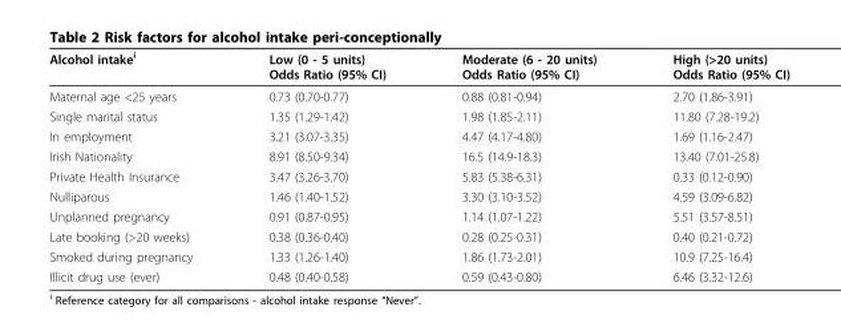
<table><thead><tr><td>Alcohol intake<sup>i</sup></td><td>Low (0 - 5 units) Odds Ratio (95% CI)</td><td>Moderate (6 - 20 units) Odds Ratio (95% CI)</td><td>High (&gt;20 units) Odds Ratio (95% CI)</td></tr></thead><tbody><tr><td>Maternal age &lt;25 years</td><td>0.73 (0.70-0.77)</td><td>0.88 (0.81-0.94)</td><td>2.70 (1.86-3.91)</td></tr><tr><td>Single marital status</td><td>1.35 (1.29-1.42)</td><td>1.98 (1.85-2.11)</td><td>11.80 (7.28-19.2)</td></tr><tr><td>In employment</td><td>3.21 (3.07-3.35)</td><td>4.47 (4.17-4.80)</td><td>1.69 (1.16-2.47)</td></tr><tr><td>Irish Nationality</td><td>8.91 (8.50-9.34)</td><td>16.5 (14.9-18.3)</td><td>13.40 (7.01-25.8)</td></tr><tr><td>Private Health Insurance</td><td>3.47 (3.26-3.70)</td><td>5.83 (5.38-6.31)</td><td>0.33 (0.12-0.90)</td></tr><tr><td>Nulliparous</td><td>1.46 (1.40-1.52)</td><td>3.30 (3.10-3.52)</td><td>4.59 (3.09-6.82)</td></tr><tr><td>Unplanned pregnancy</td><td>0.91 (0.87-0.95)</td><td>1.14 (1.07-1.22)</td><td>5.51 (3.57-8.51)</td></tr><tr><td>Late booking (&gt;20 weeks)</td><td>0.38 (0.36-0.40)</td><td>0.28 (0.25-0.31)</td><td>0.40 (0.21-0.72)</td></tr><tr><td>Smoked during pregnancy</td><td>1.33 (1.26-1.40)</td><td>1.86 (1.73-2.01)</td><td>10.9 (7.25-16.4)</td></tr><tr><td>Illicit drug use (ever)</td><td>0.48 (0.40-0.58)</td><td>0.59 (0.43-0.80)</td><td>6.46 (3.32-12.6)</td></tr></tbody></table>